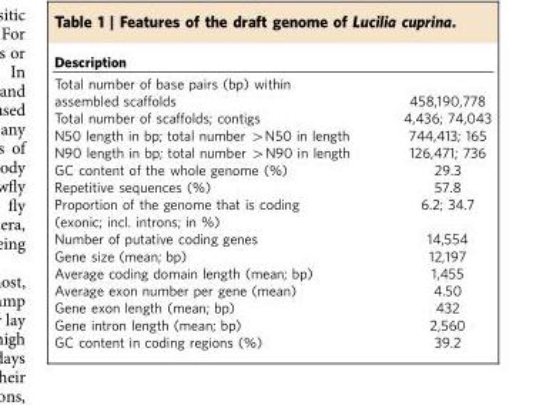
<table><thead><tr><td>Description</td><td></td></tr></thead><tbody><tr><td>Total number of base pairs (bp) within assembled scaffolds</td><td>458,190,778</td></tr><tr><td>Total number of scaffolds; contigs</td><td>4,436; 74,043</td></tr><tr><td>N50 length in bp; total number &gt;N50 in length</td><td>744,413; 165</td></tr><tr><td>N90 length in bp; total number &gt;N90 in length</td><td>126,471; 736</td></tr><tr><td>GC content of the whole genome (%)</td><td>29.3</td></tr><tr><td>Repetitive sequences (%)</td><td>57.8</td></tr><tr><td>Proportion of the genome that is coding (exonic; incl. introns; in %)</td><td>6.2; 34.7</td></tr><tr><td>Number of putative coding genes</td><td>14,554</td></tr><tr><td>Gene size (mean; bp)</td><td>12,197</td></tr><tr><td>Average coding domain length (mean; bp)</td><td>1,455</td></tr><tr><td>Average exon number per gene (mean)</td><td>4.50</td></tr><tr><td>Gene exon length (mean; bp)</td><td>432</td></tr><tr><td>Gene intron length (mean; bp)</td><td>2,560</td></tr><tr><td>GC content in coding regions (%)</td><td>39.2</td></tr></tbody></table>